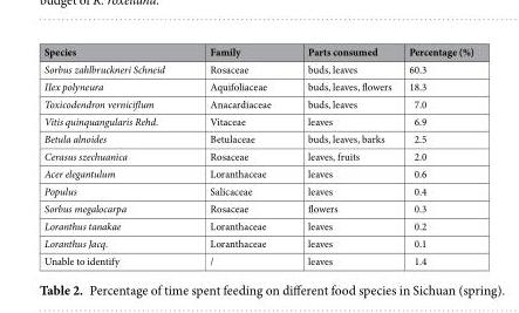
<table><thead><tr><td>Species</td><td>Family</td><td>Parts consumed</td><td>Percentage (%)</td></tr></thead><tbody><tr><td>Sorbus zahlbruckneri Schneid</td><td>Rosaceae</td><td>buds, leaves</td><td>60.3</td></tr><tr><td>IIex polyneura</td><td>Aquifoliaceae</td><td>buds, leaves, flowers</td><td>18.3</td></tr><tr><td>Toxicodendron verniciflum</td><td>Anacardiaceae</td><td>buds, leaves</td><td>7.0</td></tr><tr><td>Vitis quinquangularis Rehd.</td><td>Vitaceae</td><td>leaves</td><td>6.9</td></tr><tr><td>Betula alnoides</td><td>Betulaceae</td><td>buds, leaves, barks</td><td>2.5</td></tr><tr><td>Cerasus szechuanica</td><td>Rosaceae</td><td>leaves, fruits</td><td>2.0</td></tr><tr><td>Acer elegantulum</td><td>Loranthaceae</td><td>leaves</td><td>0.6</td></tr><tr><td>Populus</td><td>Salicaceae</td><td>leaves</td><td>0.4</td></tr><tr><td>Sorbus megalocarpa</td><td>Rosaceae</td><td>flowers</td><td>0.3</td></tr><tr><td>Loranthus tanakae</td><td>Loranthaceae</td><td>leaves</td><td>0.2</td></tr><tr><td>Loranthus Jacq.</td><td>Loranthaceae</td><td>leaves</td><td>0.1</td></tr><tr><td>Unable to identify</td><td>/</td><td>leaves</td><td>1.4</td></tr></tbody></table>